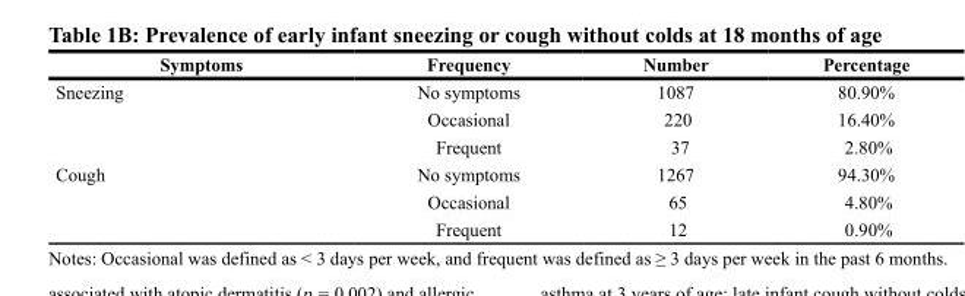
<table><thead><tr><td>Symptoms</td><td>Frequency</td><td>Number</td><td>Percentage</td></tr></thead><tbody><tr><td rowspan="3">Sneezing</td><td>No symptoms</td><td>1087</td><td>80.90%</td></tr><tr><td>Occasional</td><td>220</td><td>16.40%</td></tr><tr><td>Frequent</td><td>37</td><td>2.80%</td></tr><tr><td rowspan="3">Cough</td><td>No symptoms</td><td>1267</td><td>94.30%</td></tr><tr><td>Occasional</td><td>65</td><td>4.80%</td></tr><tr><td>Frequent</td><td>12</td><td>0.90%</td></tr></tbody></table>